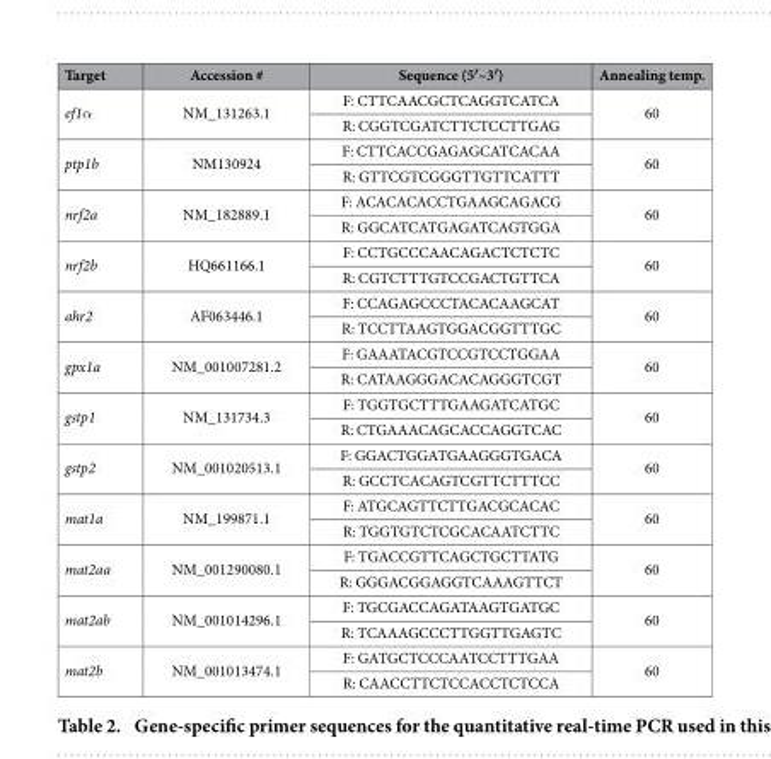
<table><thead><tr><td>Target</td><td>Accession #</td><td>Sequence (5′–3′)</td><td>Annealing temp.</td></tr></thead><tbody><tr><td rowspan="2">ef1α</td><td rowspan="2">NM_131263.1</td><td>F: CTTCAACGCTCAGGTCATCA</td><td rowspan="2">60</td></tr><tr><td>R: CGGTCGATCTTCTCCTTGAG</td></tr><tr><td rowspan="2">ptp1b</td><td rowspan="2">NM130924</td><td>F: CTTCACCGAGAGCATCACAA</td><td rowspan="2">60</td></tr><tr><td>R: GTTCGTCGGGTTGTTCATTT</td></tr><tr><td rowspan="2">nrf2a</td><td rowspan="2">NM_182889.1</td><td>F: ACACACACCTGAAGCAGACG</td><td rowspan="2">60</td></tr><tr><td>R: GGCATCATGAGATCAGTGGA</td></tr><tr><td rowspan="2">nrf2b</td><td rowspan="2">HQ661166.1</td><td>F: CCTGCCCAACAGACTCTCTC</td><td rowspan="2">60</td></tr><tr><td>R: CGTCTTTGTCCGACTGTTCA</td></tr><tr><td rowspan="2">ahr2</td><td rowspan="2">AF063446.1</td><td>F: CCAGAGCCCTACACAAGCAT</td><td rowspan="2">60</td></tr><tr><td>R: TCCTTAAGTGGACGGTTTGC</td></tr><tr><td rowspan="2">gpx1a</td><td rowspan="2">NM_001007281.2</td><td>F: GAAATACGTCCGTCCTGGAA</td><td rowspan="2">60</td></tr><tr><td>R: CATAAGGGACACAGGGTCGT</td></tr><tr><td rowspan="2">gstp1</td><td rowspan="2">NM_131734.3</td><td>F: TGGTGCTTTGAAGATCATGC</td><td rowspan="2">60</td></tr><tr><td>R: CTGAAACAGCACCAGGTCAC</td></tr><tr><td rowspan="2">gstp2</td><td rowspan="2">NM_001020513.1</td><td>F: GGACTGGATGAAGGGTGACA</td><td rowspan="2">60</td></tr><tr><td>R: GCCTCACAGTCGTTCTTTCC</td></tr><tr><td rowspan="2">mat1a</td><td rowspan="2">NM_199871.1</td><td>F: ATGCAGTTCTTGACGCACAC</td><td rowspan="2">60</td></tr><tr><td>R: TGGTGTCTCGCACAATCTTC</td></tr><tr><td rowspan="2">mat2aa</td><td rowspan="2">NM_001290080.1</td><td>F: TGACCGTTCAGCTGCTTATG</td><td rowspan="2">60</td></tr><tr><td>R: GGGACGGAGGTCAAAGTTCT</td></tr><tr><td rowspan="2">mat2ab</td><td rowspan="2">NM_001014296.1</td><td>F: TGCGACCAGATAAGTGATGC</td><td rowspan="2">60</td></tr><tr><td>R: TCAAAGCCCTTGGTTGAGTC</td></tr><tr><td rowspan="2">mat2b</td><td rowspan="2">NM_001013474.1</td><td>F: GATGCTCCCAATCCTTTGAA</td><td rowspan="2">60</td></tr><tr><td>R: CAACCTTCTCCACCTCTCCA</td></tr></tbody></table>